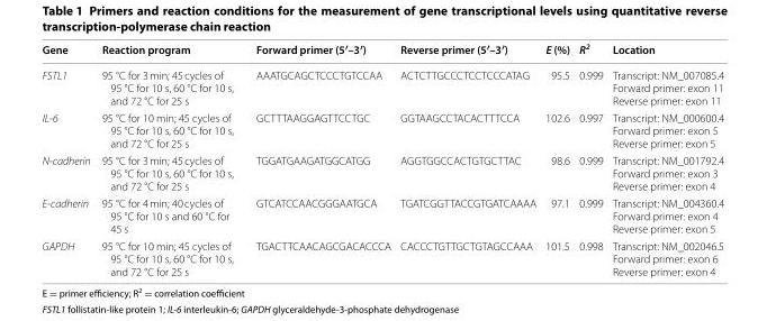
<table><thead><tr><td>Gene</td><td>Reaction program</td><td>Forward primer (5′–3′)</td><td>Reverse primer (5′–3′)</td><td>E (%)</td><td>R<sup>2</sup></td><td>Location</td></tr></thead><tbody><tr><td>FSTL1</td><td>95 °C for 3 min; 45 cycles of 95 °C for 10 s, 60 °C for 10 s, and 72 °C for 25 s</td><td>AAATGCAGCTCCCTGTCCAA</td><td>ACTCTTGCCCTCCTCCCATAG</td><td>95.5</td><td>0.999</td><td>Transcript: NM_007085.4 Forward primer: exon 11 Reverse primer: exon 11</td></tr><tr><td>IL-6</td><td>95 °C for 10 min; 45 cycles of 95 °C for 10 s, 60 °C for 10 s, and 72 °C for 25 s</td><td>GCTTTAAGGAGTTCCTGC</td><td>GGTAAGCCTACACTTTCCA</td><td>102.6</td><td>0.997</td><td>Transcript: NM_000600.4 Forward primer: exon 5 Reverse primer: exon 5</td></tr><tr><td>N-cadherin</td><td>95 °C for 3 min; 45 cycles of 95 °C for 10 s, 60 °C for 10 s, and 72 °C for 25 s</td><td>TGGATGAAGATGGCATGG</td><td>AGGTGGCCACTGTGCTTAC</td><td>98.6</td><td>0.999</td><td>Transcript: NM_001792.4 Forward primer: exon 3 Reverse primer: exon 4</td></tr><tr><td>E-cadherin</td><td>95 °C for 4 min; 40 cycles of 95 °C for 10 s and 60 °C for 45 s</td><td>GTCATCCAACGGGAATGCA</td><td>TGATCGGTTACCGTGATCAAAA</td><td>97.1</td><td>0.999</td><td>Transcript: NM_004360.4 Forward primer: exon 4 Reverse primer: exon 5</td></tr><tr><td>GAPDH</td><td>95 °C for 10 min; 45 cycles of 95 °C for 10 s, 60 °C for 10 s, and 72 °C for 25 s</td><td>TGACTTCAACAGCGACACCCA</td><td>CACCCTGTTGCTGTAGCCAAA</td><td>101.5</td><td>0.998</td><td>Transcript: NM_002046.5 Forward primer: exon 6 Reverse primer: exon 4</td></tr></tbody></table>